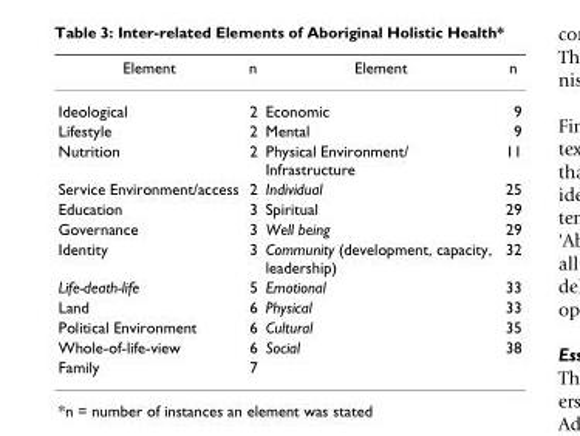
<table><thead><tr><td>Element</td><td>n</td><td>Element</td><td>n</td></tr></thead><tbody><tr><td>Ideological</td><td>2</td><td>Economic</td><td>9</td></tr><tr><td>Lifestyle</td><td>2</td><td>Mental</td><td>9</td></tr><tr><td>Nutrition</td><td>2</td><td>Physical Environment/ Infrastructure</td><td>11</td></tr><tr><td>Service Environment/access</td><td>2</td><td>Individual</td><td>25</td></tr><tr><td>Education</td><td>3</td><td>Spiritual</td><td>29</td></tr><tr><td>Governance</td><td>3</td><td>Well being</td><td>29</td></tr><tr><td>Identity</td><td>3</td><td>Community (development, capacity, leadership)</td><td>32</td></tr><tr><td>Life-death-life</td><td>5</td><td>Emotional</td><td>33</td></tr><tr><td>Land</td><td>6</td><td>Physical</td><td>33</td></tr><tr><td>Political Environment</td><td>6</td><td>Cultural</td><td>35</td></tr><tr><td>Whole-of-life-view</td><td>6</td><td>Social</td><td>38</td></tr><tr><td>Family</td><td>7</td><td></td><td></td></tr></tbody></table>